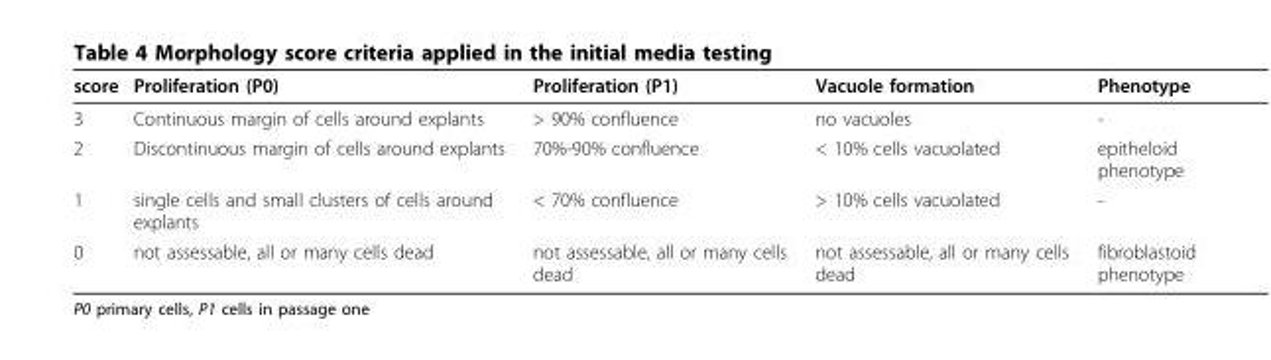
<table><thead><tr><td>score</td><td>Proliferation (P0)</td><td>Proliferation (P1)</td><td>Vacuole formation</td><td>Phenotype</td></tr></thead><tbody><tr><td>3</td><td>Continuous margin of cells around explants</td><td>&gt; 90% confluence</td><td>no vacuoles</td><td>-</td></tr><tr><td>2</td><td>Discontinuous margin of cells around explants</td><td>70%-90% confluence</td><td>&lt; 10% cells vacuolated</td><td>epitheloid phenotype</td></tr><tr><td>1</td><td>single cells and small clusters of cells around explants</td><td>&lt; 70% confluence</td><td>&gt; 10% cells vacuolated</td><td>-</td></tr><tr><td>0</td><td>not assessable, all or many cells dead</td><td>not assessable, all or many cells dead</td><td>not assessable, all or many cells dead</td><td>fibroblastoid phenotype</td></tr></tbody></table>